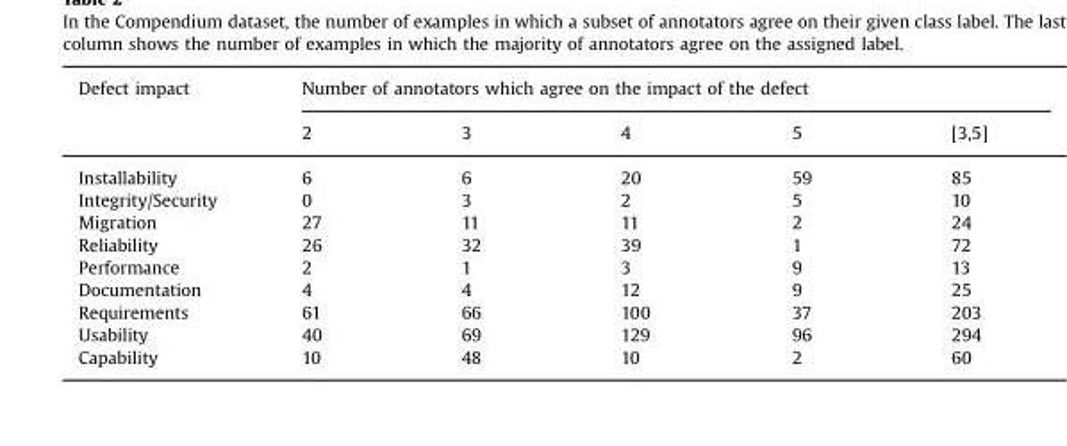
<table><thead><tr><td rowspan="2">Defect impact</td><td colspan="5">Number of annotators which agree on the impact of the defect</td></tr><tr><td>2</td><td>3</td><td>4</td><td>5</td><td>[3,5]</td></tr></thead><tbody><tr><td>Installability</td><td>6</td><td>6</td><td>20</td><td>59</td><td>85</td></tr><tr><td>Integrity/Security</td><td>0</td><td>3</td><td>2</td><td>5</td><td>10</td></tr><tr><td>Migration</td><td>27</td><td>11</td><td>11</td><td>2</td><td>24</td></tr><tr><td>Reliability</td><td>26</td><td>32</td><td>39</td><td>1</td><td>72</td></tr><tr><td>Performance</td><td>2</td><td>1</td><td>3</td><td>9</td><td>13</td></tr><tr><td>Documentation</td><td>4</td><td>4</td><td>12</td><td>9</td><td>25</td></tr><tr><td>Requirements</td><td>61</td><td>66</td><td>100</td><td>37</td><td>203</td></tr><tr><td>Usability</td><td>40</td><td>69</td><td>129</td><td>96</td><td>294</td></tr><tr><td>Capability</td><td>10</td><td>48</td><td>10</td><td>2</td><td>60</td></tr></tbody></table>